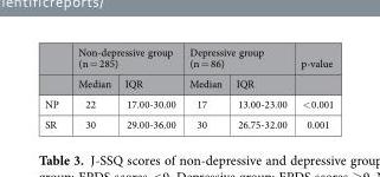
<table><thead><tr><td rowspan="2"></td><td colspan="2">Non-depressive group (n = 285)</td><td colspan="2">Depressive group (n = 86)</td><td rowspan="2">p-value</td></tr><tr><td>Median</td><td>IQR</td><td>Median</td><td>IQR</td></tr></thead><tbody><tr><td>NP</td><td>22</td><td>17.00-30.00</td><td>17</td><td>13.00-23.00</td><td>&lt; 0.001</td></tr><tr><td>SR</td><td>30</td><td>29.00-36.00</td><td>30</td><td>26.75-32.00</td><td>0.001</td></tr></tbody></table>